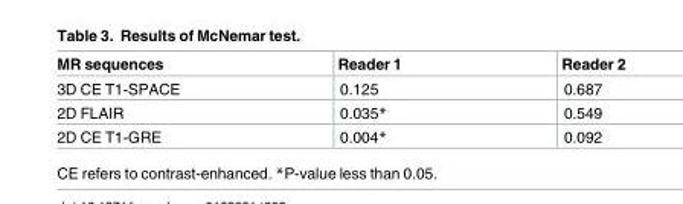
<table><thead><tr><td>MR sequences</td><td>Reader 1</td><td>Reader 2</td></tr></thead><tbody><tr><td>3D CE T1-SPACE</td><td>0.125</td><td>0.687</td></tr><tr><td>2D FLAIR</td><td>0.035*</td><td>0.549</td></tr><tr><td>2D CE T1-GRE</td><td>0.004*</td><td>0.092</td></tr></tbody></table>